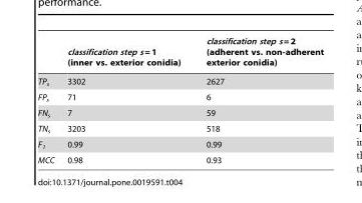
<table><thead><tr><td></td><td>classification step s = 1 (inner vs. exterior conidia)</td><td>classification step s = 2 (adherent vs. non-adherent exterior conidia)</td></tr></thead><tbody><tr><td>TP<sub>s</sub></td><td>3302</td><td>2627</td></tr><tr><td>FP<sub>s</sub></td><td>71</td><td>6</td></tr><tr><td>FN<sub>s</sub></td><td>7</td><td>59</td></tr><tr><td>TN<sub>s</sub></td><td>3203</td><td>518</td></tr><tr><td>F<sub>1</sub></td><td>0.99</td><td>0.99</td></tr><tr><td>MCC</td><td>0.98</td><td>0.93</td></tr></tbody></table>